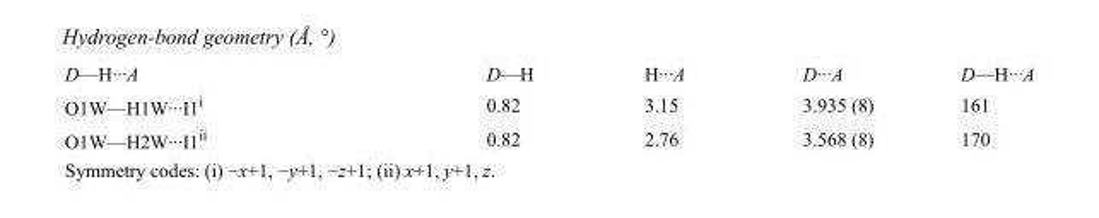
<table><tbody><tr><td>D—H···A</td><td>D—H</td><td>H···A</td><td>D···A</td><td>D—H···A</td></tr><tr><td>O1W—H1W···I1<sup>i</sup></td><td>0.82</td><td>3.15</td><td>3.935 (8)</td><td>161</td></tr><tr><td>O1W—H2W···I1<sup>ii</sup></td><td>0.82</td><td>2.76</td><td>3.568 (8)</td><td>170</td></tr></tbody></table>